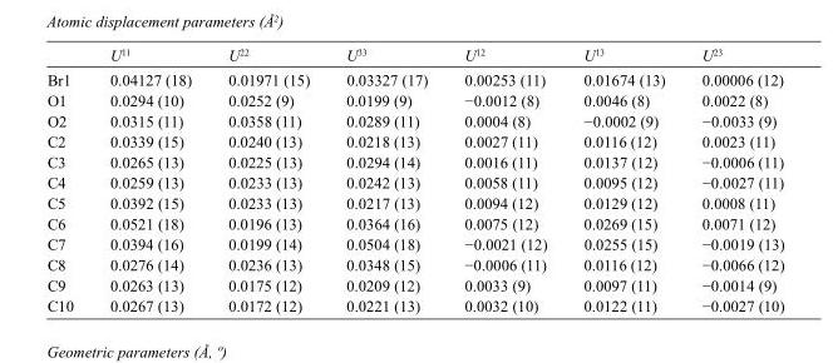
<table><thead><tr><td></td><td>U<sup>11</sup></td><td>U<sup>22</sup></td><td>U<sup>33</sup></td><td>U<sup>12</sup></td><td>U<sup>13</sup></td><td>U<sup>23</sup></td></tr></thead><tbody><tr><td>Br1</td><td>0.04127 (18)</td><td>0.01971 (15)</td><td>0.03327 (17)</td><td>0.00253 (11)</td><td>0.01674 (13)</td><td>0.00006 (12)</td></tr><tr><td>O1</td><td>0.0294 (10)</td><td>0.0252 (9)</td><td>0.0199 (9)</td><td>−0.0012 (8)</td><td>0.0046 (8)</td><td>0.0022 (8)</td></tr><tr><td>O2</td><td>0.0315 (11)</td><td>0.0358 (11)</td><td>0.0289 (11)</td><td>0.0004 (8)</td><td>−0.0002 (9)</td><td>−0.0033 (9)</td></tr><tr><td>C2</td><td>0.0339 (15)</td><td>0.0240 (13)</td><td>0.0218 (13)</td><td>0.0027 (11)</td><td>0.0116 (12)</td><td>0.0023 (11)</td></tr><tr><td>C3</td><td>0.0265 (13)</td><td>0.0225 (13)</td><td>0.0294 (14)</td><td>0.0016 (11)</td><td>0.0137 (12)</td><td>−0.0006 (11)</td></tr><tr><td>C4</td><td>0.0259 (13)</td><td>0.0233 (13)</td><td>0.0242 (13)</td><td>0.0058 (11)</td><td>0.0095 (12)</td><td>−0.0027 (11)</td></tr><tr><td>C5</td><td>0.0392 (15)</td><td>0.0233 (13)</td><td>0.0217 (13)</td><td>0.0094 (12)</td><td>0.0129 (12)</td><td>0.0008 (11)</td></tr><tr><td>C6</td><td>0.0521 (18)</td><td>0.0196 (13)</td><td>0.0364 (16)</td><td>0.0075 (12)</td><td>0.0269 (15)</td><td>0.0071 (12)</td></tr><tr><td>C7</td><td>0.0394 (16)</td><td>0.0199 (14)</td><td>0.0504 (18)</td><td>−0.0021 (12)</td><td>0.0255 (15)</td><td>−0.0019 (13)</td></tr><tr><td>C8</td><td>0.0276 (14)</td><td>0.0236 (13)</td><td>0.0348 (15)</td><td>−0.0006 (11)</td><td>0.0116 (12)</td><td>−0.0066 (12)</td></tr><tr><td>C9</td><td>0.0263 (13)</td><td>0.0175 (12)</td><td>0.0209 (12)</td><td>0.0033 (9)</td><td>0.0097 (11)</td><td>−0.0014 (9)</td></tr><tr><td>C10</td><td>0.0267 (13)</td><td>0.0172 (12)</td><td>0.0221 (13)</td><td>0.0032 (10)</td><td>0.0122 (11)</td><td>−0.0027 (10)</td></tr></tbody></table>